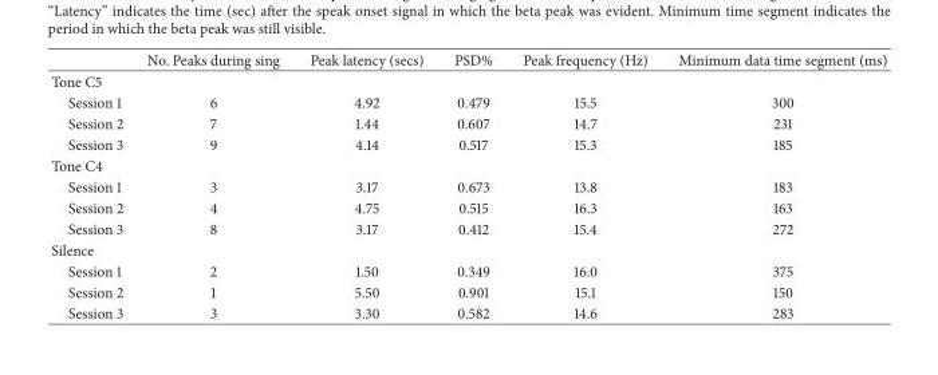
<table><thead><tr><td></td><td>No. Peaks during sing</td><td>Peak latency (secs)</td><td>PSD%</td><td>Peak frequency (Hz)</td><td>Minimum data time segment (ms)</td></tr></thead><tbody><tr><td colspan="6">Tone C5</td></tr><tr><td>Session 1</td><td>6</td><td>4.92</td><td>0.479</td><td>15.5</td><td>300</td></tr><tr><td>Session 2</td><td>7</td><td>1.44</td><td>0.607</td><td>14.7</td><td>231</td></tr><tr><td>Session 3</td><td>9</td><td>4.14</td><td>0.517</td><td>15.3</td><td>185</td></tr><tr><td colspan="6">Tone C4</td></tr><tr><td>Session 1</td><td>3</td><td>3.17</td><td>0.673</td><td>13.8</td><td>183</td></tr><tr><td>Session 2</td><td>4</td><td>4.75</td><td>0.515</td><td>16.3</td><td>163</td></tr><tr><td>Session 3</td><td>8</td><td>3.17</td><td>0.412</td><td>15.4</td><td>272</td></tr><tr><td colspan="6">Silence</td></tr><tr><td>Session 1</td><td>2</td><td>1.50</td><td>0.349</td><td>16.0</td><td>375</td></tr><tr><td>Session 2</td><td>1</td><td>5.50</td><td>0.901</td><td>15.1</td><td>150</td></tr><tr><td>Session 3</td><td>3</td><td>3.30</td><td>0.582</td><td>14.6</td><td>283</td></tr></tbody></table>